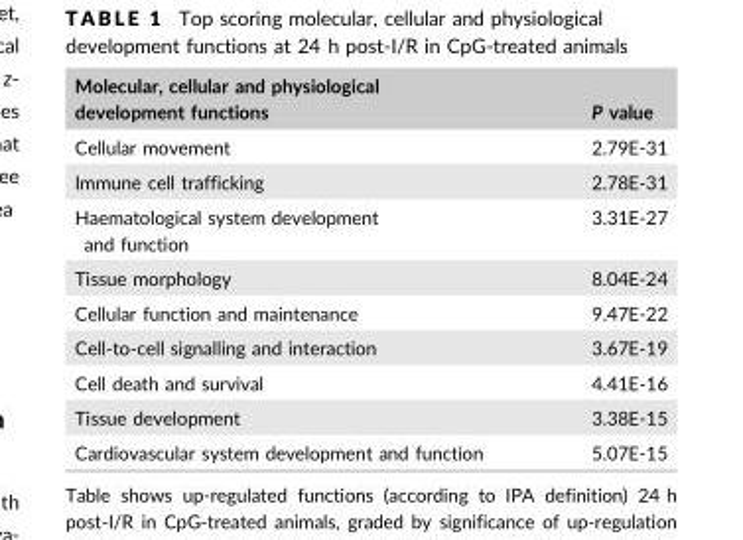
<table><thead><tr><td>Molecular, cellular and physiological development functions</td><td>P value</td></tr></thead><tbody><tr><td>Cellular movement</td><td>2.79E-31</td></tr><tr><td>Immune cell trafficking</td><td>2.78E-31</td></tr><tr><td>Haematological system development and function</td><td>3.31E-27</td></tr><tr><td>Tissue morphology</td><td>8.04E-24</td></tr><tr><td>Cellular function and maintenance</td><td>9.47E-22</td></tr><tr><td>Cell-to-cell signalling and interaction</td><td>3.67E-19</td></tr><tr><td>Cell death and survival</td><td>4.41E-16</td></tr><tr><td>Tissue development</td><td>3.38E-15</td></tr><tr><td>Cardiovascular system development and function</td><td>5.07E-15</td></tr></tbody></table>